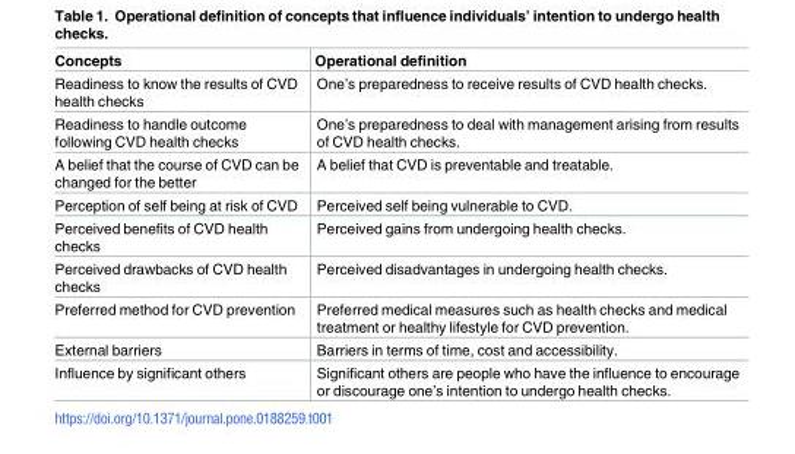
<table><thead><tr><td>Concepts</td><td>Operational definition</td></tr></thead><tbody><tr><td>Readiness to know the results of CVD health checks</td><td>One’s preparedness to receive results of CVD health checks.</td></tr><tr><td>Readiness to handle outcome following CVD health checks</td><td>One’s preparedness to deal with management arising from results of CVD health checks.</td></tr><tr><td>A belief that the course of CVD can be changed for the better</td><td>A belief that CVD is preventable and treatable.</td></tr><tr><td>Perception of self being at risk of CVD</td><td>Perceived self being vulnerable to CVD.</td></tr><tr><td>Perceived benefits of CVD health checks</td><td>Perceived gains from undergoing health checks.</td></tr><tr><td>Perceived drawbacks of CVD health checks</td><td>Perceived disadvantages in undergoing health checks.</td></tr><tr><td>Preferred method for CVD prevention</td><td>Preferred medical measures such as health checks and medical treatment or healthy lifestyle for CVD prevention.</td></tr><tr><td>External barriers</td><td>Barriers in terms of time, cost and accessibility.</td></tr><tr><td>Influence by significant others</td><td>Significant others are people who have the influence to encourage or discourage one’s intention to undergo health checks.</td></tr></tbody></table>